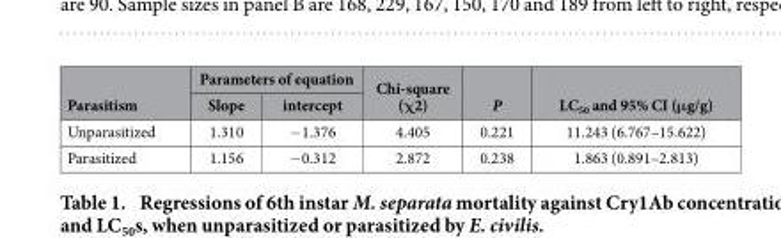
<table><thead><tr><td rowspan="2">Parasitism</td><td colspan="2">Parameters of equation</td><td rowspan="2">Chi-square (χ2)</td><td rowspan="2">P</td><td rowspan="2">LC<sub>50</sub> and 95% CI (μg/g)</td></tr><tr><td>Slope</td><td>intercept</td></tr></thead><tbody><tr><td>Unparasitized</td><td>1.310</td><td>− 1.376</td><td>4.405</td><td>0.221</td><td>11.243 (6.767–15.622)</td></tr><tr><td>Parasitized</td><td>1.156</td><td>− 0.312</td><td>2.872</td><td>0.238</td><td>1.863 (0.891–2.813)</td></tr></tbody></table>